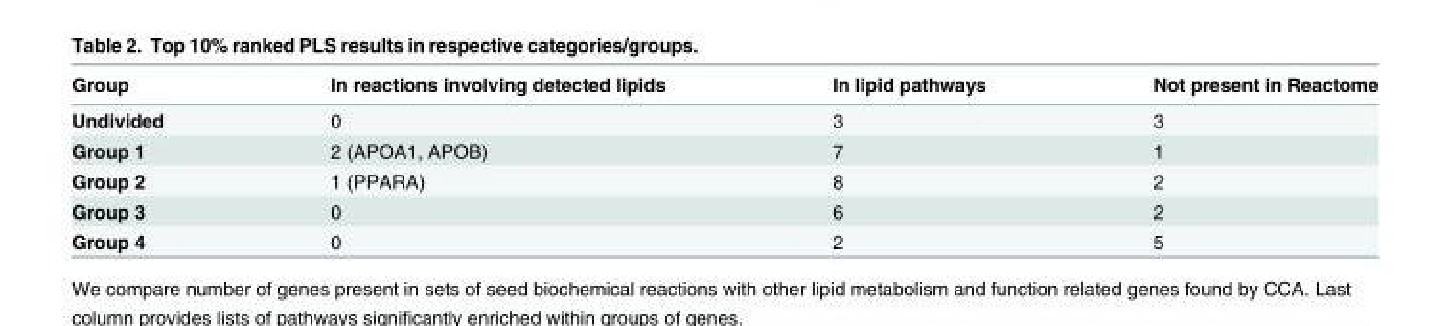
<table><thead><tr><td>Group</td><td>In reactions involving detected lipids</td><td>In lipid pathways</td><td>Not present in Reactome</td></tr></thead><tbody><tr><td>Undivided</td><td>0</td><td>3</td><td>3</td></tr><tr><td>Group 1</td><td>2 (APOA1, APOB)</td><td>7</td><td>1</td></tr><tr><td>Group 2</td><td>1 (PPARA)</td><td>8</td><td>2</td></tr><tr><td>Group 3</td><td>0</td><td>6</td><td>2</td></tr><tr><td>Group 4</td><td>0</td><td>2</td><td>5</td></tr></tbody></table>